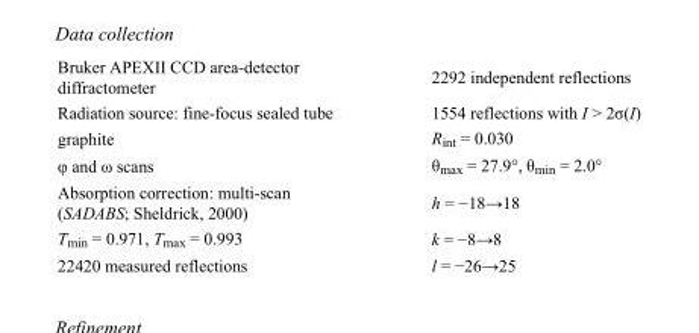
<table><tbody><tr><td>Bruker APEXII CCD area-detector diffractometer</td><td>2292 independent reflections</td></tr><tr><td>Radiation source: fine-focus sealed tube</td><td>1554 reflections with I &gt; 2σ(I)</td></tr><tr><td>graphite</td><td>R<sub>int</sub> = 0.030</td></tr><tr><td>φ and ω scans</td><td>θ<sub>max</sub> = 27.9°, θ<sub>min</sub> = 2.0°</td></tr><tr><td>Absorption correction: multi-scan (SADABS; Sheldrick, 2000)</td><td>h = −18→18</td></tr><tr><td>T<sub>min</sub> = 0.971, T<sub>max</sub> = 0.993</td><td>k = −8→8</td></tr><tr><td>22420 measured reflections</td><td>l = −26→25</td></tr></tbody></table>